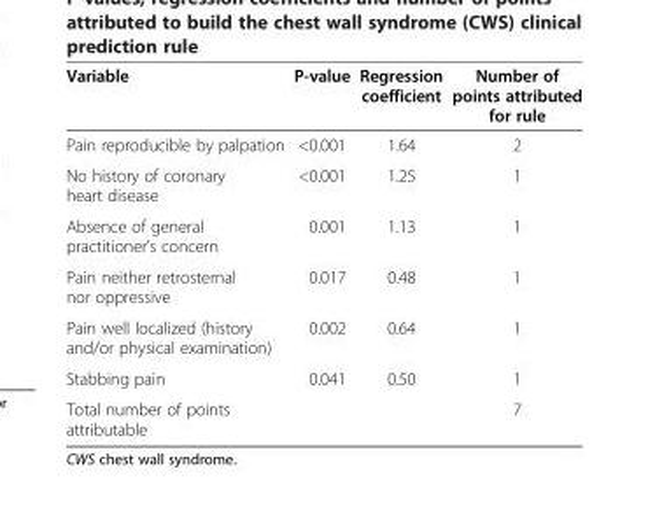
<table><thead><tr><td>Variable</td><td>P-value</td><td>Regression coefficient</td><td>Number of points attributed for rule</td></tr></thead><tbody><tr><td>Pain reproducible by palpation</td><td>&lt;0.001</td><td>1.64</td><td>2</td></tr><tr><td>No history of coronary heart disease</td><td>&lt;0.001</td><td>1.25</td><td>1</td></tr><tr><td>Absence of general practitioner’s concern</td><td>0.001</td><td>1.13</td><td>1</td></tr><tr><td>Pain neither retrosternal nor oppressive</td><td>0.017</td><td>0.48</td><td>1</td></tr><tr><td>Pain well localized (history and/or physical examination)</td><td>0.002</td><td>0.64</td><td>1</td></tr><tr><td>Stabbing pain</td><td>0.041</td><td>0.50</td><td>1</td></tr><tr><td>Total number of points attributable</td><td></td><td></td><td>7</td></tr></tbody></table>